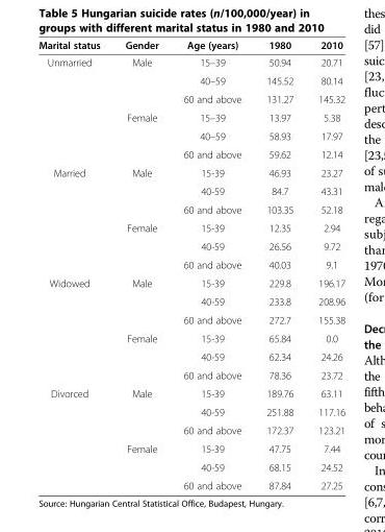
<table><thead><tr><td>Marital status</td><td>Gender</td><td>Age (years)</td><td>1980</td><td>2010</td></tr></thead><tbody><tr><td rowspan="6">Unmarried</td><td rowspan="3">Male</td><td>15–39</td><td>50.94</td><td>20.71</td></tr><tr><td>40–59</td><td>145.52</td><td>80.14</td></tr><tr><td>60 and above</td><td>131.27</td><td>145.32</td></tr><tr><td rowspan="3">Female</td><td>15–39</td><td>13.97</td><td>5.38</td></tr><tr><td>40–59</td><td>58.93</td><td>17.97</td></tr><tr><td>60 and above</td><td>59.62</td><td>12.14</td></tr><tr><td rowspan="6">Married</td><td rowspan="3">Male</td><td>15-39</td><td>46.93</td><td>23.27</td></tr><tr><td>40-59</td><td>84.7</td><td>43.31</td></tr><tr><td>60 and above</td><td>103.35</td><td>52.18</td></tr><tr><td rowspan="3">Female</td><td>15-39</td><td>12.35</td><td>2.94</td></tr><tr><td>40-59</td><td>26.56</td><td>9.72</td></tr><tr><td>60 and above</td><td>40.03</td><td>9.1</td></tr><tr><td rowspan="6">Widowed</td><td rowspan="3">Male</td><td>15-39</td><td>229.8</td><td>196.17</td></tr><tr><td>40-59</td><td>233.8</td><td>208.96</td></tr><tr><td>60 and above</td><td>272.7</td><td>155.38</td></tr><tr><td rowspan="3">Female</td><td>15-39</td><td>65.84</td><td>0.0</td></tr><tr><td>40-59</td><td>62.34</td><td>24.26</td></tr><tr><td>60 and above</td><td>78.36</td><td>23.72</td></tr><tr><td rowspan="6">Divorced</td><td rowspan="3">Male</td><td>15-39</td><td>189.76</td><td>63.11</td></tr><tr><td>40-59</td><td>251.88</td><td>117.16</td></tr><tr><td>60 and above</td><td>172.37</td><td>123.21</td></tr><tr><td rowspan="2">Female</td><td>15-39</td><td>47.75</td><td>7.44</td></tr><tr><td>40-59</td><td>68.15</td><td>24.52</td></tr><tr><td></td><td>60 and above</td><td>87.84</td><td>27.25</td></tr></tbody></table>